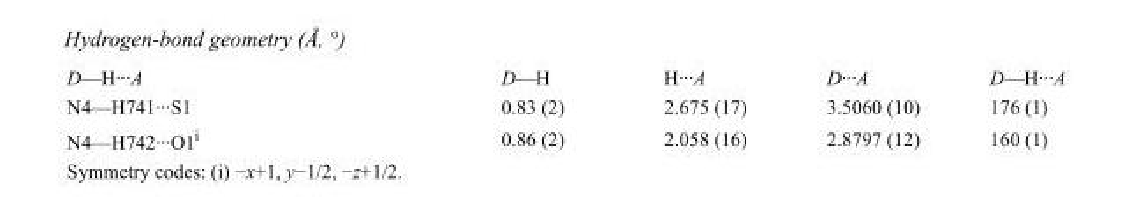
<table><tbody><tr><td>D—H···A</td><td>D—H</td><td>H···A</td><td>D···A</td><td>D—H···A</td></tr><tr><td>N4—H741···S1</td><td>0.83 (2)</td><td>2.675 (17)</td><td>3.5060 (10)</td><td>176 (1)</td></tr><tr><td>N4—H742···O1<sup>i</sup></td><td>0.86 (2)</td><td>2.058 (16)</td><td>2.8797 (12)</td><td>160 (1)</td></tr></tbody></table>